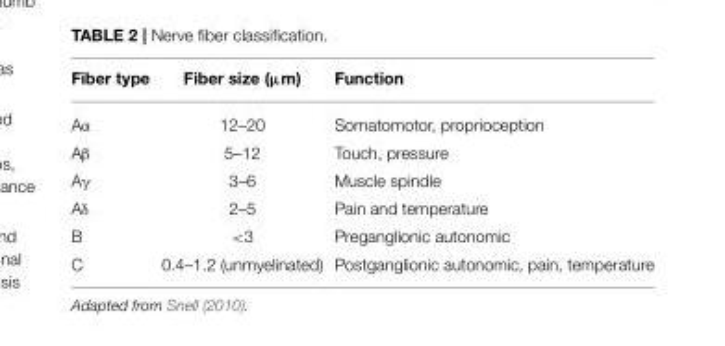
<table><thead><tr><td>Fiber type</td><td>Fiber size (µm)</td><td>Function</td></tr></thead><tbody><tr><td>Aα</td><td>12–20</td><td>Somatomotor, proprioception</td></tr><tr><td>Aβ</td><td>5–12</td><td>Touch, pressure</td></tr><tr><td>Aγ</td><td>3–6</td><td>Muscle spindle</td></tr><tr><td>Aδ</td><td>2–5</td><td>Pain and temperature</td></tr><tr><td>B</td><td>&lt;3</td><td>Preganglionic autonomic</td></tr><tr><td>C</td><td>0.4–1.2 (unmyelinated)</td><td>Postganglionic autonomic, pain, temperature</td></tr></tbody></table>